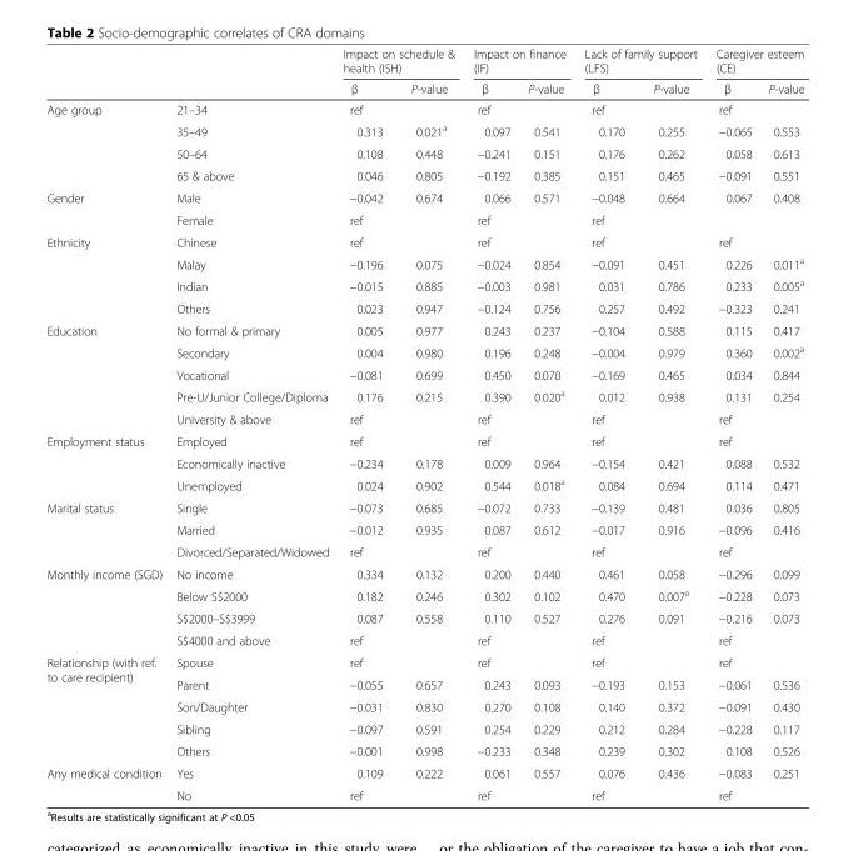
<table><thead><tr><td rowspan="2"></td><td rowspan="2"></td><td colspan="2">Impact on schedule &amp; health (ISH)</td><td colspan="2">Impact on finance (IF)</td><td colspan="2">Lack of family support (LFS)</td><td colspan="2">Caregiver esteem (CE)</td></tr><tr><td>β</td><td>P-value</td><td>β</td><td>P-value</td><td>β</td><td>P-value</td><td>β</td><td>P-value</td></tr></thead><tbody><tr><td rowspan="4">Age group</td><td>21–34</td><td>ref</td><td></td><td>ref</td><td></td><td>ref</td><td></td><td>ref</td><td></td></tr><tr><td>35–49</td><td>0.313</td><td>0.021<sup>a</sup></td><td>0.097</td><td>0.541</td><td>0.170</td><td>0.255</td><td>−0.065</td><td>0.553</td></tr><tr><td>50–64</td><td>0.108</td><td>0.448</td><td>−0.241</td><td>0.151</td><td>0.176</td><td>0.262</td><td>0.058</td><td>0.613</td></tr><tr><td>65 &amp; above</td><td>0.046</td><td>0.805</td><td>−0.192</td><td>0.385</td><td>0.151</td><td>0.465</td><td>−0.091</td><td>0.551</td></tr><tr><td rowspan="2">Gender</td><td>Male</td><td>−0.042</td><td>0.674</td><td>0.066</td><td>0.571</td><td>−0.048</td><td>0.664</td><td>0.067</td><td>0.408</td></tr><tr><td>Female</td><td>ref</td><td></td><td>ref</td><td></td><td>ref</td><td></td><td></td><td></td></tr><tr><td rowspan="4">Ethnicity</td><td>Chinese</td><td>ref</td><td></td><td>ref</td><td></td><td>ref</td><td></td><td>ref</td><td></td></tr><tr><td>Malay</td><td>−0.196</td><td>0.075</td><td>−0.024</td><td>0.854</td><td>−0.091</td><td>0.451</td><td>0.226</td><td>0.011<sup>a</sup></td></tr><tr><td>Indian</td><td>−0.015</td><td>0.885</td><td>−0.003</td><td>0.981</td><td>0.031</td><td>0.786</td><td>0.233</td><td>0.005<sup>a</sup></td></tr><tr><td>Others</td><td>0.023</td><td>0.947</td><td>−0.124</td><td>0.756</td><td>0.257</td><td>0.492</td><td>−0.323</td><td>0.241</td></tr><tr><td rowspan="5">Education</td><td>No formal &amp; primary</td><td>0.005</td><td>0.977</td><td>0.243</td><td>0.237</td><td>−0.104</td><td>0.588</td><td>0.115</td><td>0.417</td></tr><tr><td>Secondary</td><td>0.004</td><td>0.980</td><td>0.196</td><td>0.248</td><td>−0.004</td><td>0.979</td><td>0.360</td><td>0.002<sup>a</sup></td></tr><tr><td>Vocational</td><td>−0.081</td><td>0.699</td><td>0.450</td><td>0.070</td><td>−0.169</td><td>0.465</td><td>0.034</td><td>0.844</td></tr><tr><td>Pre-U/Junior College/Diploma</td><td>0.176</td><td>0.215</td><td>0.390</td><td>0.020<sup>a</sup></td><td>0.012</td><td>0.938</td><td>0.131</td><td>0.254</td></tr><tr><td>University &amp; above</td><td>ref</td><td></td><td>ref</td><td></td><td>ref</td><td></td><td>ref</td><td></td></tr><tr><td rowspan="3">Employment status</td><td>Employed</td><td>ref</td><td></td><td>ref</td><td></td><td>ref</td><td></td><td>ref</td><td></td></tr><tr><td>Economically inactive</td><td>−0.234</td><td>0.178</td><td>0.009</td><td>0.964</td><td>−0.154</td><td>0.421</td><td>0.088</td><td>0.532</td></tr><tr><td>Unemployed</td><td>0.024</td><td>0.902</td><td>0.544</td><td>0.018<sup>a</sup></td><td>0.084</td><td>0.694</td><td>0.114</td><td>0.471</td></tr><tr><td rowspan="3">Marital status</td><td>Single</td><td>−0.073</td><td>0.685</td><td>−0.072</td><td>0.733</td><td>−0.139</td><td>0.481</td><td>0.036</td><td>0.805</td></tr><tr><td>Married</td><td>−0.012</td><td>0.935</td><td>0.087</td><td>0.612</td><td>−0.017</td><td>0.916</td><td>−0.096</td><td>0.416</td></tr><tr><td>Divorced/Separated/Widowed</td><td>ref</td><td></td><td>ref</td><td></td><td>ref</td><td></td><td>ref</td><td></td></tr><tr><td rowspan="4">Monthly income (SGD)</td><td>No income</td><td>0.334</td><td>0.132</td><td>0.200</td><td>0.440</td><td>0.461</td><td>0.058</td><td>−0.296</td><td>0.099</td></tr><tr><td>Below S$2000</td><td>0.182</td><td>0.246</td><td>0.302</td><td>0.102</td><td>0.470</td><td>0.007<sup>a</sup></td><td>−0.228</td><td>0.073</td></tr><tr><td>S$2000–S$3999</td><td>0.087</td><td>0.558</td><td>0.110</td><td>0.527</td><td>0.276</td><td>0.091</td><td>−0.216</td><td>0.073</td></tr><tr><td>S$4000 and above</td><td>ref</td><td></td><td>ref</td><td></td><td>ref</td><td></td><td>ref</td><td></td></tr><tr><td rowspan="5">Relationship (with ref. to care recipient)</td><td>Spouse</td><td>ref</td><td></td><td>ref</td><td></td><td>ref</td><td></td><td>ref</td><td></td></tr><tr><td>Parent</td><td>−0.055</td><td>0.657</td><td>0.243</td><td>0.093</td><td>−0.193</td><td>0.153</td><td>−0.061</td><td>0.536</td></tr><tr><td>Son/Daughter</td><td>−0.031</td><td>0.830</td><td>0.270</td><td>0.108</td><td>0.140</td><td>0.372</td><td>−0.091</td><td>0.430</td></tr><tr><td>Sibling</td><td>−0.097</td><td>0.591</td><td>0.254</td><td>0.229</td><td>0.212</td><td>0.284</td><td>−0.228</td><td>0.117</td></tr><tr><td>Others</td><td>−0.001</td><td>0.998</td><td>−0.233</td><td>0.348</td><td>0.239</td><td>0.302</td><td>0.108</td><td>0.526</td></tr><tr><td rowspan="2">Any medical condition</td><td>Yes</td><td>0.109</td><td>0.222</td><td>0.061</td><td>0.557</td><td>0.076</td><td>0.436</td><td>−0.083</td><td>0.251</td></tr><tr><td>No</td><td>ref</td><td></td><td>ref</td><td></td><td>ref</td><td></td><td>ref</td><td></td></tr></tbody></table>